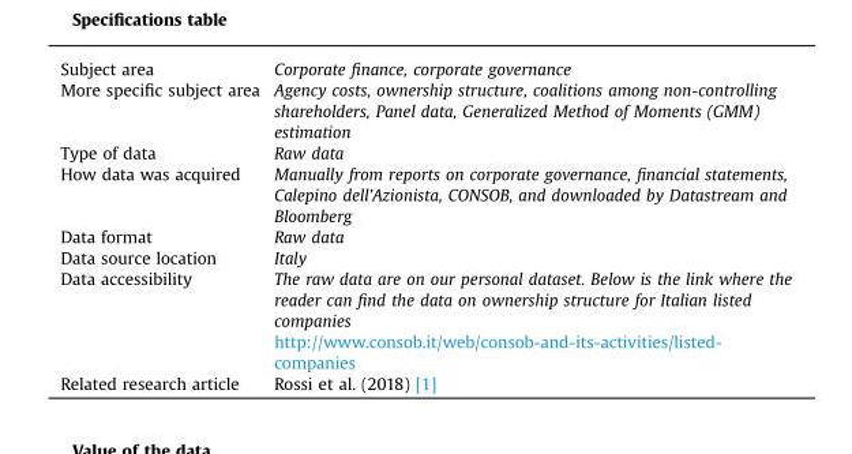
<table><tbody><tr><td>Subject area</td><td>Corporate finance, corporate governance</td></tr><tr><td>More specific subject area</td><td>Agency costs, ownership structure, coalitions among non-controlling shareholders, Panel data, Generalized Method of Moments (GMM) estimation</td></tr><tr><td>Type of data</td><td>Raw data</td></tr><tr><td>How data was acquired</td><td>Manually from reports on corporate governance, financial statements, Calepino dell’Azionista, CONSOB, and downloaded by Datastream and Bloomberg</td></tr><tr><td>Data format</td><td>Raw data</td></tr><tr><td>Data source location</td><td>Italy</td></tr><tr><td rowspan="2">Data accessibility</td><td>The raw data are on our personal dataset. Below is the link where the reader can find the data on ownership structure for Italian listed companies</td></tr><tr><td>http://www.consob.it/web/consob-and-its-activities/listed- companies</td></tr><tr><td>Related research article</td><td>Rossi et al. (2018) [1]</td></tr></tbody></table>